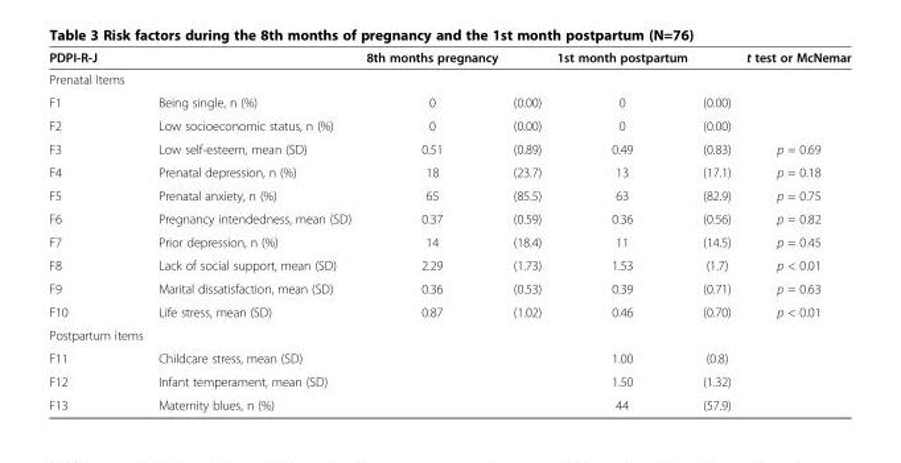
<table><thead><tr><td>PDPI-R-J</td><td></td><td>8th months pregnancy</td><td></td><td>1st month postpartum</td><td></td><td>t test or McNemar</td></tr></thead><tbody><tr><td colspan="7">Prenatal Items</td></tr><tr><td>F1</td><td>Being single, n (%)</td><td>0</td><td>(0.00)</td><td>0</td><td>(0.00)</td><td></td></tr><tr><td>F2</td><td>Low socioeconomic status, n (%)</td><td>0</td><td>(0.00)</td><td>0</td><td>(0.00)</td><td></td></tr><tr><td>F3</td><td>Low self-esteem, mean (SD)</td><td>0.51</td><td>(0.89)</td><td>0.49</td><td>(0.83)</td><td>p = 0.69</td></tr><tr><td>F4</td><td>Prenatal depression, n (%)</td><td>18</td><td>(23.7)</td><td>13</td><td>(17.1)</td><td>p = 0.18</td></tr><tr><td>F5</td><td>Prenatal anxiety, n (%)</td><td>65</td><td>(85.5)</td><td>63</td><td>(82.9)</td><td>p = 0.75</td></tr><tr><td>F6</td><td>Pregnancy intendedness, mean (SD)</td><td>0.37</td><td>(0.59)</td><td>0.36</td><td>(0.56)</td><td>p = 0.82</td></tr><tr><td>F7</td><td>Prior depression, n (%)</td><td>14</td><td>(18.4)</td><td>11</td><td>(14.5)</td><td>p = 0.45</td></tr><tr><td>F8</td><td>Lack of social support, mean (SD)</td><td>2.29</td><td>(1.73)</td><td>1.53</td><td>(1.7)</td><td>p &lt; 0.01</td></tr><tr><td>F9</td><td>Marital dissatisfaction, mean (SD)</td><td>0.36</td><td>(0.53)</td><td>0.39</td><td>(0.71)</td><td>p = 0.63</td></tr><tr><td>F10</td><td>Life stress, mean (SD)</td><td>0.87</td><td>(1.02)</td><td>0.46</td><td>(0.70)</td><td>p &lt; 0.01</td></tr><tr><td colspan="7">Postpartum items</td></tr><tr><td>F11</td><td>Childcare stress, mean (SD)</td><td></td><td></td><td>1.00</td><td>(0.8)</td><td></td></tr><tr><td>F12</td><td>Infant temperament, mean (SD)</td><td></td><td></td><td>1.50</td><td>(1.32)</td><td></td></tr><tr><td>F13</td><td>Maternity blues, n (%)</td><td></td><td></td><td>44</td><td>(57.9)</td><td></td></tr></tbody></table>